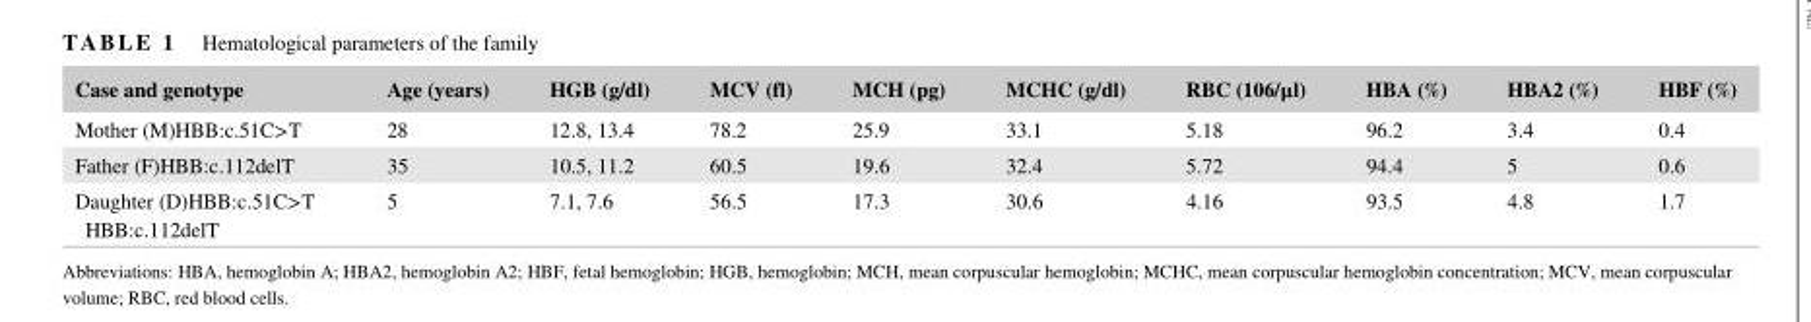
<table><thead><tr><td>Case and genotype</td><td>Age (years)</td><td>HGB (g/dl)</td><td>MCV (fl)</td><td>MCH (pg)</td><td>MCHC (g/dl)</td><td>RBC (106/μl)</td><td>HBA (%)</td><td>HBA2 (%)</td><td>HBF (%)</td></tr></thead><tbody><tr><td>Mother (M)HBB:c.51C&gt;T</td><td>28</td><td>12.8, 13.4</td><td>78.2</td><td>25.9</td><td>33.1</td><td>5.18</td><td>96.2</td><td>3.4</td><td>0.4</td></tr><tr><td>Father (F)HBB:c.112delT</td><td>35</td><td>10.5, 11.2</td><td>60.5</td><td>19.6</td><td>32.4</td><td>5.72</td><td>94.4</td><td>5</td><td>0.6</td></tr><tr><td>Daughter (D)HBB:c.51C&gt;T HBB:c.112delT</td><td>5</td><td>7.1, 7.6</td><td>56.5</td><td>17.3</td><td>30.6</td><td>4.16</td><td>93.5</td><td>4.8</td><td>1.7</td></tr></tbody></table>